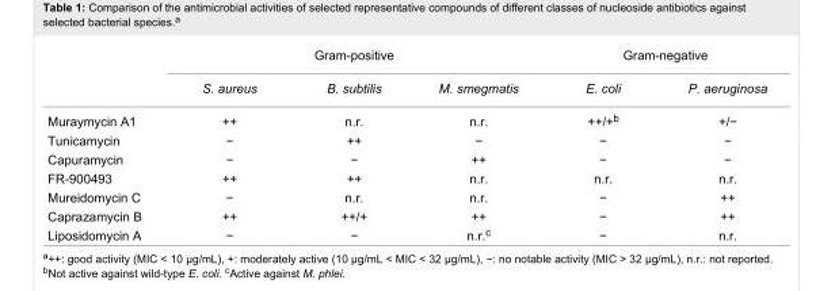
<table><thead><tr><td rowspan="2"></td><td colspan="3">Gram-positive</td><td colspan="2">Gram-negative</td></tr><tr><td>S. aureus</td><td>B. subtilis</td><td>M. smegmatis</td><td>E. coli</td><td>P. aeruginosa</td></tr></thead><tbody><tr><td>Muraymycin A1</td><td>++</td><td>n.r.</td><td>n.r.</td><td>++/+<sup>b</sup></td><td>+/−</td></tr><tr><td>Tunicamycin</td><td>−</td><td>++</td><td>−</td><td>−</td><td>−</td></tr><tr><td>Capuramycin</td><td>−</td><td>−</td><td>++</td><td>−</td><td>−</td></tr><tr><td>FR-900493</td><td>++</td><td>++</td><td>n.r.</td><td>n.r.</td><td>n.r.</td></tr><tr><td>Mureidomycin C</td><td>−</td><td>n.r.</td><td>n.r.</td><td>−</td><td>++</td></tr><tr><td>Caprazamycin B</td><td>++</td><td>++/+</td><td>++</td><td>−</td><td>++</td></tr><tr><td>Liposidomycin A</td><td>−</td><td>−</td><td>n.r.<sup>c</sup></td><td>−</td><td>n.r.</td></tr></tbody></table>